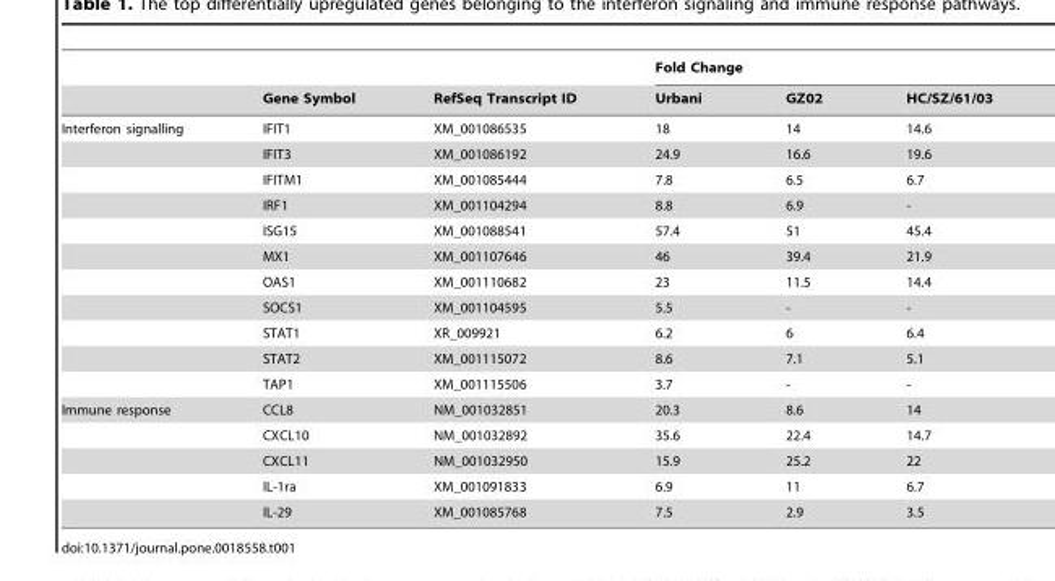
<table><thead><tr><td rowspan="2"></td><td rowspan="2">Gene Symbol</td><td rowspan="2">RefSeq Transcript ID</td><td colspan="3">Fold Change</td></tr><tr><td>Urbani</td><td>GZ02</td><td>HC/SZ/61/03</td></tr></thead><tbody><tr><td rowspan="11">Interferon signalling</td><td>IFIT1</td><td>XM_001086535</td><td>18</td><td>14</td><td>14.6</td></tr><tr><td>IFIT3</td><td>XM_001086192</td><td>24.9</td><td>16.6</td><td>19.6</td></tr><tr><td>IFITM1</td><td>XM_001085444</td><td>7.8</td><td>6.5</td><td>6.7</td></tr><tr><td>IRF1</td><td>XM_001104294</td><td>8.8</td><td>6.9</td><td>-</td></tr><tr><td>ISG15</td><td>XM_001088541</td><td>57.4</td><td>51</td><td>45.4</td></tr><tr><td>MX1</td><td>XM_001107646</td><td>46</td><td>39.4</td><td>21.9</td></tr><tr><td>OAS1</td><td>XM_001110682</td><td>23</td><td>11.5</td><td>14.4</td></tr><tr><td>SOCS1</td><td>XM_001104595</td><td>5.5</td><td>-</td><td>-</td></tr><tr><td>STAT1</td><td>XR_009921</td><td>6.2</td><td>6</td><td>6.4</td></tr><tr><td>STAT2</td><td>XM_001115072</td><td>8.6</td><td>7.1</td><td>5.1</td></tr><tr><td>TAP1</td><td>XM_001115506</td><td>3.7</td><td>-</td><td>-</td></tr><tr><td rowspan="5">Immune response</td><td>CCL8</td><td>NM_001032851</td><td>20.3</td><td>8.6</td><td>14</td></tr><tr><td>CXCL10</td><td>NM_001032892</td><td>35.6</td><td>22.4</td><td>14.7</td></tr><tr><td>CXCL11</td><td>NM_001032950</td><td>15.9</td><td>25.2</td><td>22</td></tr><tr><td>IL-1ra</td><td>XM_001091833</td><td>6.9</td><td>11</td><td>6.7</td></tr><tr><td>IL-29</td><td>XM_001085768</td><td>7.5</td><td>2.9</td><td>3.5</td></tr></tbody></table>